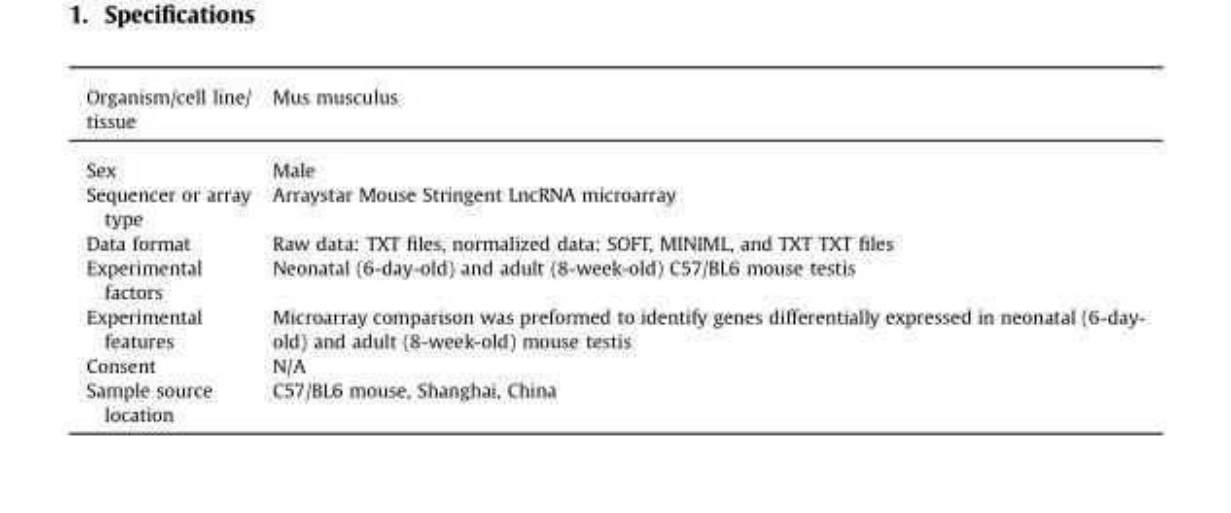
<table><thead><tr><td>Organism/cell line/ tissue</td><td>Mus musculus</td></tr></thead><tbody><tr><td>Sex</td><td>Male</td></tr><tr><td>Sequencer or array type</td><td>Arraystar Mouse Stringent LncRNA microarray</td></tr><tr><td>Data format</td><td>Raw data: TXT files, normalized data: SOFT, MINIML, and TXT TXT files</td></tr><tr><td>Experimental factors</td><td>Neonatal (6-day-old) and adult (8-week-old) C57/BL6 mouse testis</td></tr><tr><td>Experimental features</td><td>Microarray comparison was preformed to identify genes differentially expressed in neonatal (6-day- old) and adult (8-week-old) mouse testis</td></tr><tr><td>Consent</td><td>N/A</td></tr><tr><td>Sample source location</td><td>C57/BL6 mouse, Shanghai, China</td></tr></tbody></table>